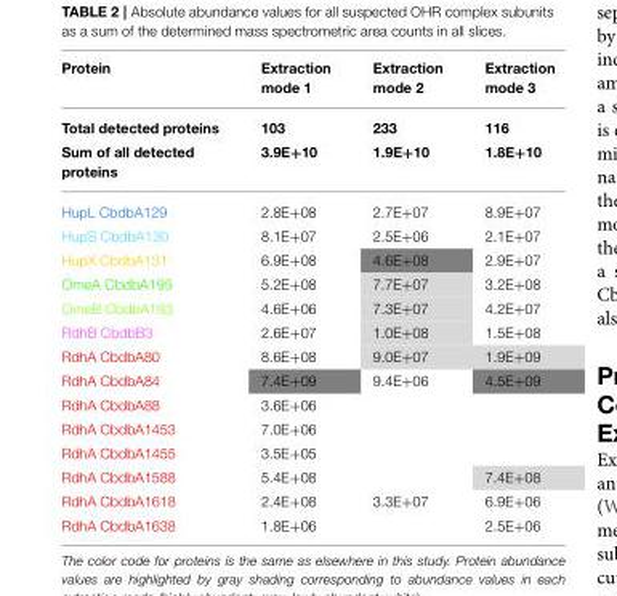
<table><thead><tr><td>Protein</td><td>Extraction mode 1</td><td>Extraction mode 2</td><td>Extraction mode 3</td></tr></thead><tbody><tr><td>Total detected proteins</td><td>103</td><td>233</td><td>116</td></tr><tr><td>Sum of all detected proteins</td><td>3.9E+10</td><td>1.9E+10</td><td>1.8E+10</td></tr><tr><td>HupL CbdbA129</td><td>2.8E+08</td><td>2.7E+07</td><td>8.9E+07</td></tr><tr><td>HupS CbdbA130</td><td>8.1E+07</td><td>2.5E+06</td><td>2.1E+07</td></tr><tr><td>HupX CbdbA131</td><td>6.9E+08</td><td>4.6E+08</td><td>2.9E+07</td></tr><tr><td>OmeA CbdbA195</td><td>5.2E+08</td><td>7.7E+07</td><td>3.2E+08</td></tr><tr><td>OmeB CbdbA193</td><td>4.6E+06</td><td>7.3E+07</td><td>4.2E+07</td></tr><tr><td>RdhB CbdbB3</td><td>2.6E+07</td><td>1.0E+08</td><td>1.5E+08</td></tr><tr><td>RdhA CbdbA80</td><td>8.6E+08</td><td>9.0E+07</td><td>1.9E+09</td></tr><tr><td>RdhA CbdbA84</td><td>7.4E+09</td><td>9.4E+06</td><td>4.5E+09</td></tr><tr><td>RdhA CbdbA88</td><td>3.6E+06</td><td></td><td></td></tr><tr><td>RdhA CbdbA1453</td><td>7.0E+06</td><td></td><td></td></tr><tr><td>RdhA CbdbA1455</td><td>3.5E+05</td><td></td><td></td></tr><tr><td>RdhA CbdbA1588</td><td>5.4E+08</td><td></td><td>7.4E+08</td></tr><tr><td>RdhA CbdbA1618</td><td>2.4E+08</td><td>3.3E+07</td><td>6.9E+06</td></tr><tr><td>RdhA CbdbA1638</td><td>1.8E+06</td><td></td><td>2.5E+06</td></tr></tbody></table>